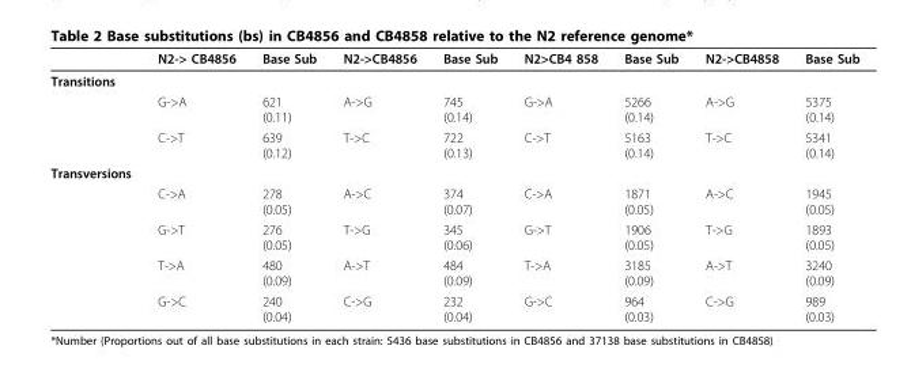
<table><thead><tr><td></td><td>N2-&gt; CB4856</td><td>Base Sub</td><td>N2-&gt;CB4856</td><td>Base Sub</td><td>N2&gt;CB4 858</td><td>Base Sub</td><td>N2-&gt;CB4858</td><td>Base Sub</td></tr></thead><tbody><tr><td colspan="9">Transitions</td></tr><tr><td></td><td>G-&gt;A</td><td>621 (0.11)</td><td>A-&gt;G</td><td>745 (0.14)</td><td>G-&gt;A</td><td>5266 (0.14)</td><td>A-&gt;G</td><td>5375 (0.14)</td></tr><tr><td></td><td>C-&gt;T</td><td>639 (0.12)</td><td>T-&gt;C</td><td>722 (0.13)</td><td>C-&gt;T</td><td>5163 (0.14)</td><td>T-&gt;C</td><td>5341 (0.14)</td></tr><tr><td colspan="9">Transversions</td></tr><tr><td></td><td>C-&gt;A</td><td>278 (0.05)</td><td>A-&gt;C</td><td>374 (0.07)</td><td>C-&gt;A</td><td>1871 (0.05)</td><td>A-&gt;C</td><td>1945 (0.05)</td></tr><tr><td></td><td>G-&gt;T</td><td>276 (0.05)</td><td>T-&gt;G</td><td>345 (0.06)</td><td>G-&gt;T</td><td>1906 (0.05)</td><td>T-&gt;G</td><td>1893 (0.05)</td></tr><tr><td></td><td>T-&gt;A</td><td>480 (0.09)</td><td>A-&gt;T</td><td>484 (0.09)</td><td>T-&gt;A</td><td>3185 (0.09)</td><td>A-&gt;T</td><td>3240 (0.09)</td></tr><tr><td></td><td>G-&gt;C</td><td>240 (0.04)</td><td>C-&gt;G</td><td>232 (0.04)</td><td>G-&gt;C</td><td>964 (0.03)</td><td>C-&gt;G</td><td>989 (0.03)</td></tr></tbody></table>